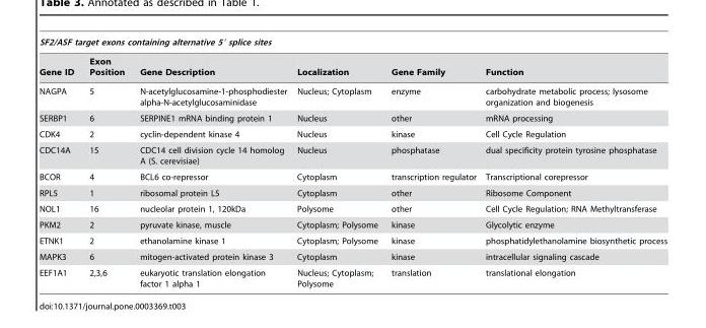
<table><thead><tr><td colspan="6">SF2/ASF target exons containing alternative 5′ splice sites</td></tr><tr><td>Gene ID</td><td>Exon Position</td><td>Gene Description</td><td>Localization</td><td>Gene Family</td><td>Function</td></tr></thead><tbody><tr><td>NAGPA</td><td>5</td><td>N-acetylglucosamine-1-phosphodiester alpha-N-acetylglucosaminidase</td><td>Nucleus; Cytoplasm</td><td>enzyme</td><td>carbohydrate metabolic process; lysosome organization and biogenesis</td></tr><tr><td>SERBP1</td><td>6</td><td>SERPINE1 mRNA binding protein 1</td><td>Nucleus</td><td>other</td><td>mRNA processing</td></tr><tr><td>CDK4</td><td>2</td><td>cyclin-dependent kinase 4</td><td>Nucleus</td><td>kinase</td><td>Cell Cycle Regulation</td></tr><tr><td>CDC14A</td><td>15</td><td>CDC14 cell division cycle 14 homolog A (S. cerevisiae)</td><td>Nucleus</td><td>phosphatase</td><td>dual specificity protein tyrosine phosphatase</td></tr><tr><td>BCOR</td><td>4</td><td>BCL6 co-repressor</td><td>Cytoplasm</td><td>transcription regulator</td><td>Transcriptional corepressor</td></tr><tr><td>RPL5</td><td>1</td><td>ribosomal protein L5</td><td>Cytoplasm</td><td>other</td><td>Ribosome Component</td></tr><tr><td>NOL1</td><td>16</td><td>nucleolar protein 1, 120kDa</td><td>Polysome</td><td>other</td><td>Cell Cycle Regulation; RNA Methyltransferase</td></tr><tr><td>PKM2</td><td>2</td><td>pyruvate kinase, muscle</td><td>Cytoplasm; Polysome</td><td>kinase</td><td>Glycolytic enzyme</td></tr><tr><td>ETNK1</td><td>2</td><td>ethanolamine kinase 1</td><td>Cytoplasm; Polysome</td><td>kinase</td><td>phosphatidylethanolamine biosynthetic process</td></tr><tr><td>MAPK3</td><td>6</td><td>mitogen-activated protein kinase 3</td><td>Cytoplasm</td><td>kinase</td><td>intracellular signaling cascade</td></tr><tr><td>EEF1A1</td><td>2,3,6</td><td>eukaryotic translation elongation factor 1 alpha 1</td><td>Nucleus; Cytoplasm; Polysome</td><td>translation</td><td>translational elongation</td></tr></tbody></table>